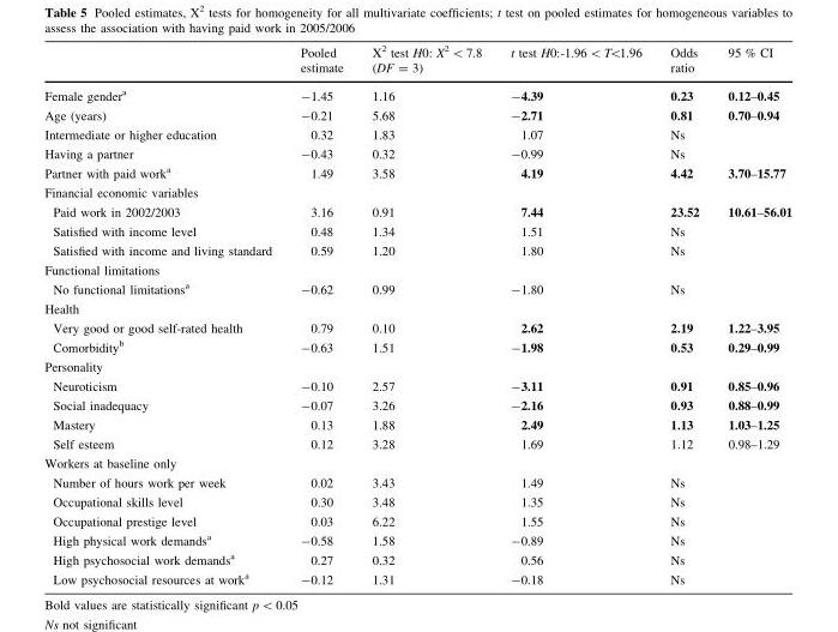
<table><thead><tr><td></td><td>Pooled estimate</td><td>X<sup>2</sup> test H0: X<sup>2</sup> &lt; 7.8 (DF = 3)</td><td>t test H0:-1.96 &lt; T&lt;1.96</td><td>Odds ratio</td><td>95 % CI</td></tr></thead><tbody><tr><td>Female gender<sup>a</sup></td><td>-1.45</td><td>1.16</td><td>-4.39</td><td>0.23</td><td>0.12–0.45</td></tr><tr><td>Age (years)</td><td>-0.21</td><td>5.68</td><td>-2.71</td><td>0.81</td><td>0.70–0.94</td></tr><tr><td>Intermediate or higher education</td><td>0.32</td><td>1.83</td><td>1.07</td><td>Ns</td><td></td></tr><tr><td>Having a partner</td><td>-0.43</td><td>0.32</td><td>-0.99</td><td>Ns</td><td></td></tr><tr><td>Partner with paid work<sup>a</sup></td><td>1.49</td><td>3.58</td><td>4.19</td><td>4.42</td><td>3.70–15.77</td></tr><tr><td colspan="6">Financial economic variables</td></tr><tr><td>Paid work in 2002/2003</td><td>3.16</td><td>0.91</td><td>7.44</td><td>23.52</td><td>10.61–56.01</td></tr><tr><td>Satisfied with income level</td><td>0.48</td><td>1.34</td><td>1.51</td><td>Ns</td><td></td></tr><tr><td>Satisfied with income and living standard</td><td>0.59</td><td>1.20</td><td>1.80</td><td>Ns</td><td></td></tr><tr><td colspan="6">Functional limitations</td></tr><tr><td>No functional limitations<sup>a</sup></td><td>-0.62</td><td>0.99</td><td>-1.80</td><td>Ns</td><td></td></tr><tr><td colspan="6">Health</td></tr><tr><td>Very good or good self-rated health</td><td>0.79</td><td>0.10</td><td>2.62</td><td>2.19</td><td>1.22–3.95</td></tr><tr><td>Comorbidity<sup>b</sup></td><td>-0.63</td><td>1.51</td><td>-1.98</td><td>0.53</td><td>0.29–0.99</td></tr><tr><td colspan="6">Personality</td></tr><tr><td>Neuroticism</td><td>-0.10</td><td>2.57</td><td>-3.11</td><td>0.91</td><td>0.85–0.96</td></tr><tr><td>Social inadequacy</td><td>-0.07</td><td>3.26</td><td>-2.16</td><td>0.93</td><td>0.88–0.99</td></tr><tr><td>Mastery</td><td>0.13</td><td>1.88</td><td>2.49</td><td>1.13</td><td>1.03–1.25</td></tr><tr><td>Self esteem</td><td>0.12</td><td>3.28</td><td>1.69</td><td>1.12</td><td>0.98–1.29</td></tr><tr><td colspan="6">Workers at baseline only</td></tr><tr><td>Number of hours work per week</td><td>0.02</td><td>3.43</td><td>1.49</td><td>Ns</td><td></td></tr><tr><td>Occupational skills level</td><td>0.30</td><td>3.48</td><td>1.35</td><td>Ns</td><td></td></tr><tr><td>Occupational prestige level</td><td>0.03</td><td>6.22</td><td>1.55</td><td>Ns</td><td></td></tr><tr><td>High physical work demands<sup>a</sup></td><td>-0.58</td><td>1.58</td><td>-0.89</td><td>Ns</td><td></td></tr><tr><td>High psychosocial work demands<sup>a</sup></td><td>0.27</td><td>0.32</td><td>0.56</td><td>Ns</td><td></td></tr><tr><td>Low psychosocial resources at work<sup>a</sup></td><td>-0.12</td><td>1.31</td><td>-0.18</td><td>Ns</td><td></td></tr></tbody></table>